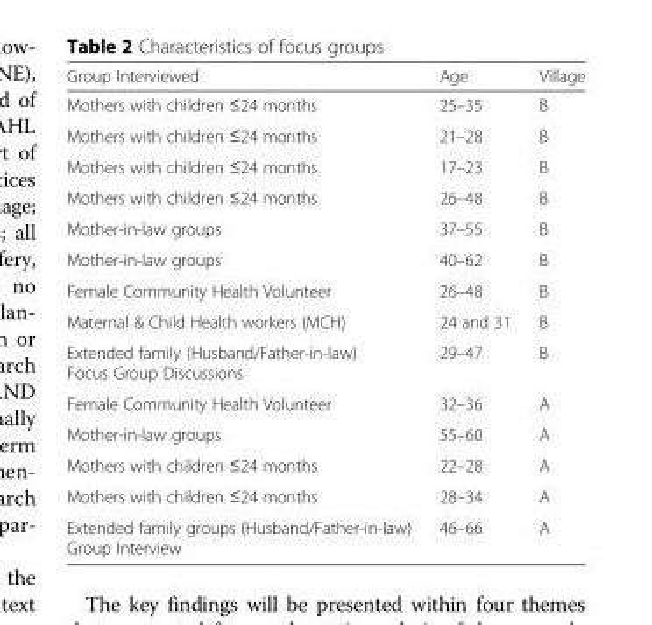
<table><thead><tr><td>Group Interviewed</td><td>Age</td><td>Village</td></tr></thead><tbody><tr><td>Mothers with children ≤24 months</td><td>25–35</td><td>B</td></tr><tr><td>Mothers with children ≤24 months</td><td>21–28</td><td>B</td></tr><tr><td>Mothers with children ≤24 months</td><td>17–23</td><td>B</td></tr><tr><td>Mothers with children ≤24 months</td><td>26–48</td><td>B</td></tr><tr><td>Mother-in-law groups</td><td>37–55</td><td>B</td></tr><tr><td>Mother-in-law groups</td><td>40–62</td><td>B</td></tr><tr><td>Female Community Health Volunteer</td><td>26–48</td><td>B</td></tr><tr><td>Maternal &amp; Child Health workers (MCH)</td><td>24 and 31</td><td>B</td></tr><tr><td>Extended family (Husband/Father-in-law) Focus Group Discussions</td><td>29–47</td><td>B</td></tr><tr><td>Female Community Health Volunteer</td><td>32–36</td><td>A</td></tr><tr><td>Mother-in-law groups</td><td>55–60</td><td>A</td></tr><tr><td>Mothers with children ≤24 months</td><td>22–28</td><td>A</td></tr><tr><td>Mothers with children ≤24 months</td><td>28–34</td><td>A</td></tr><tr><td>Extended family groups (Husband/Father-in-law) Group Interview</td><td>46–66</td><td>A</td></tr></tbody></table>